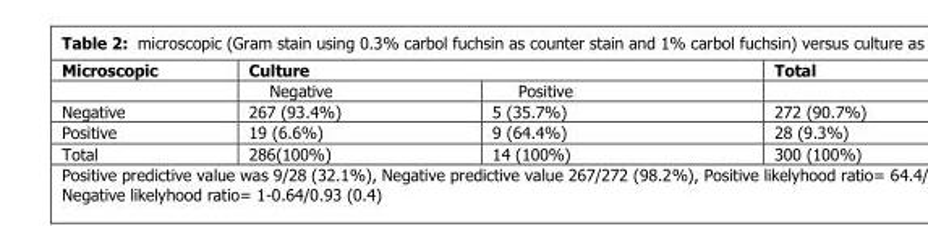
<table><thead><tr><td rowspan="2">Microscopic</td><td colspan="2">Culture</td><td rowspan="2">Total</td></tr><tr><td>Negative</td><td>Positive</td></tr></thead><tbody><tr><td>Negative</td><td>267 (93.4%)</td><td>5 (35.7%)</td><td>272 (90.7%)</td></tr><tr><td>Positive</td><td>19 (6.6%)</td><td>9 (64.4%)</td><td>28 (9.3%)</td></tr><tr><td>Total</td><td>286(100%)</td><td>14 (100%)</td><td>300 (100%)</td></tr></tbody></table>